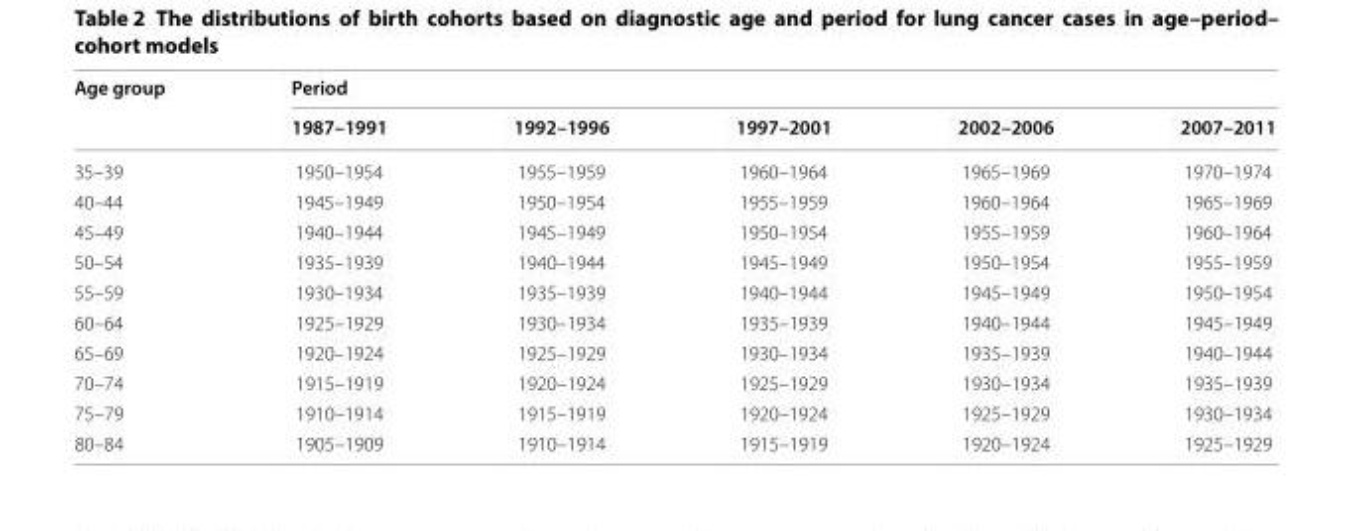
<table><thead><tr><td rowspan="2">Age group</td><td colspan="5">Period</td></tr><tr><td>1987–1991</td><td>1992–1996</td><td>1997–2001</td><td>2002–2006</td><td>2007–2011</td></tr></thead><tbody><tr><td>35–39</td><td>1950–1954</td><td>1955–1959</td><td>1960–1964</td><td>1965–1969</td><td>1970–1974</td></tr><tr><td>40–44</td><td>1945–1949</td><td>1950–1954</td><td>1955–1959</td><td>1960–1964</td><td>1965–1969</td></tr><tr><td>45–49</td><td>1940–1944</td><td>1945–1949</td><td>1950–1954</td><td>1955–1959</td><td>1960–1964</td></tr><tr><td>50–54</td><td>1935–1939</td><td>1940–1944</td><td>1945–1949</td><td>1950–1954</td><td>1955–1959</td></tr><tr><td>55–59</td><td>1930–1934</td><td>1935–1939</td><td>1940–1944</td><td>1945–1949</td><td>1950–1954</td></tr><tr><td>60–64</td><td>1925–1929</td><td>1930–1934</td><td>1935–1939</td><td>1940–1944</td><td>1945–1949</td></tr><tr><td>65–69</td><td>1920–1924</td><td>1925–1929</td><td>1930–1934</td><td>1935–1939</td><td>1940–1944</td></tr><tr><td>70–74</td><td>1915–1919</td><td>1920–1924</td><td>1925–1929</td><td>1930–1934</td><td>1935–1939</td></tr><tr><td>75–79</td><td>1910–1914</td><td>1915–1919</td><td>1920–1924</td><td>1925–1929</td><td>1930–1934</td></tr><tr><td>80–84</td><td>1905–1909</td><td>1910–1914</td><td>1915–1919</td><td>1920–1924</td><td>1925–1929</td></tr></tbody></table>